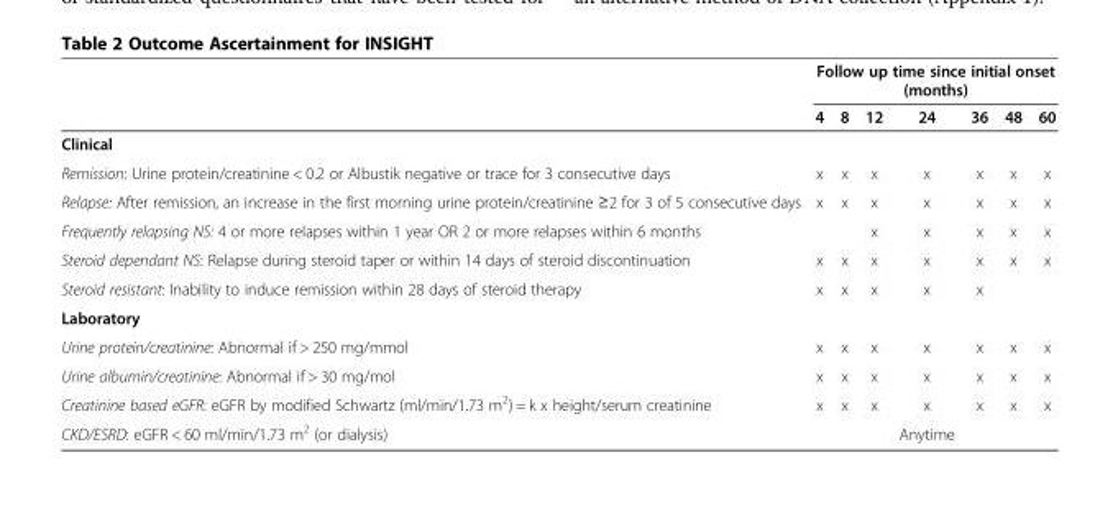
<table><thead><tr><td rowspan="2"></td><td colspan="7">Follow up time since initial onset (months)</td></tr><tr><td>4</td><td>8</td><td>12</td><td>24</td><td>36</td><td>48</td><td>60</td></tr></thead><tbody><tr><td colspan="8">Clinical</td></tr><tr><td>Remission: Urine protein/creatinine &lt; 0.2 or Albustik negative or trace for 3 consecutive days</td><td>x</td><td>x</td><td>x</td><td>x</td><td>x</td><td>x</td><td>x</td></tr><tr><td>Relapse: After remission, an increase in the first morning urine protein/creatinine ≥2 for 3 of 5 consecutive days</td><td>x</td><td>x</td><td>x</td><td>x</td><td>x</td><td>x</td><td>x</td></tr><tr><td>Frequently relapsing NS: 4 or more relapses within 1 year OR 2 or more relapses within 6 months</td><td></td><td></td><td>x</td><td>x</td><td>x</td><td>x</td><td>x</td></tr><tr><td>Steroid dependant NS: Relapse during steroid taper or within 14 days of steroid discontinuation</td><td>x</td><td>x</td><td>x</td><td>x</td><td>x</td><td>x</td><td>x</td></tr><tr><td>Steroid resistant: Inability to induce remission within 28 days of steroid therapy</td><td>x</td><td>x</td><td>x</td><td>x</td><td>x</td><td></td><td></td></tr><tr><td colspan="8">Laboratory</td></tr><tr><td>Urine protein/creatinine: Abnormal if &gt; 250 mg/mmol</td><td>x</td><td>x</td><td>x</td><td>x</td><td>x</td><td>x</td><td>x</td></tr><tr><td>Urine albumin/creatinine: Abnormal if &gt; 30 mg/mol</td><td>x</td><td>x</td><td>x</td><td>x</td><td>x</td><td>x</td><td>x</td></tr><tr><td>Creatinine based eGFR: eGFR by modified Schwartz (ml/min/1.73 m<sup>2</sup>) = k x height/serum creatinine</td><td>x</td><td>x</td><td>x</td><td>x</td><td>x</td><td>x</td><td>x</td></tr><tr><td>CKD/ESRD: eGFR &lt; 60 ml/min/1.73 m<sup>2</sup> (or dialysis)</td><td></td><td></td><td></td><td>Anytime</td><td></td><td></td><td></td></tr></tbody></table>